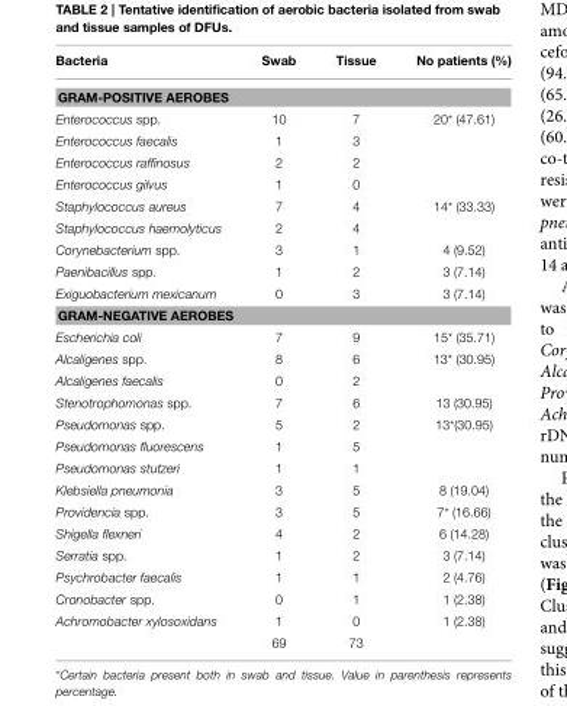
<table><thead><tr><td>Bacteria</td><td>Swab</td><td>Tissue</td><td>No patients (%)</td></tr></thead><tbody><tr><td colspan="4">GRAM-POSITIVE AEROBES</td></tr><tr><td>Enterococcus spp.</td><td>10</td><td>7</td><td>20* (47.61)</td></tr><tr><td>Enterococcus faecalis</td><td>1</td><td>3</td><td></td></tr><tr><td>Enterococcus raffinosus</td><td>2</td><td>2</td><td></td></tr><tr><td>Enterococcus gilvus</td><td>1</td><td>0</td><td></td></tr><tr><td>Staphylococcus aureus</td><td>7</td><td>4</td><td>14* (33.33)</td></tr><tr><td>Staphylococcus haemolyticus</td><td>2</td><td>4</td><td></td></tr><tr><td>Corynebacterium spp.</td><td>3</td><td>1</td><td>4 (9.52)</td></tr><tr><td>Paenibacillus spp.</td><td>1</td><td>2</td><td>3 (7.14)</td></tr><tr><td>Exiguobacterium mexicanum</td><td>0</td><td>3</td><td>3 (7.14)</td></tr><tr><td colspan="4">GRAM-NEGATIVE AEROBES</td></tr><tr><td>Escherichia coli</td><td>7</td><td>9</td><td>15* (35.71)</td></tr><tr><td>Alcaligenes spp.</td><td>8</td><td>6</td><td>13* (30.95)</td></tr><tr><td>Alcaligenes faecalis</td><td>0</td><td>2</td><td></td></tr><tr><td>Stenotrophomonas spp.</td><td>7</td><td>6</td><td>13 (30.95)</td></tr><tr><td>Pseudomonas spp.</td><td>5</td><td>2</td><td>13*(30.95)</td></tr><tr><td>Pseudomonas fluorescens</td><td>1</td><td>5</td><td></td></tr><tr><td>Pseudomonas stutzeri</td><td>1</td><td>1</td><td></td></tr><tr><td>Klebsiella pneumonia</td><td>3</td><td>5</td><td>8 (19.04)</td></tr><tr><td>Providencia spp.</td><td>3</td><td>5</td><td>7* (16.66)</td></tr><tr><td>Shigella flexneri</td><td>4</td><td>2</td><td>6 (14.28)</td></tr><tr><td>Serratia spp.</td><td>1</td><td>2</td><td>3 (7.14)</td></tr><tr><td>Psychrobacter faecalis</td><td>1</td><td>1</td><td>2 (4.76)</td></tr><tr><td>Cronobacter spp.</td><td>0</td><td>1</td><td>1 (2.38)</td></tr><tr><td rowspan="2">Achromobacter xylosoxidans</td><td>1</td><td>0</td><td>1 (2.38)</td></tr><tr><td>69</td><td>73</td><td></td></tr></tbody></table>